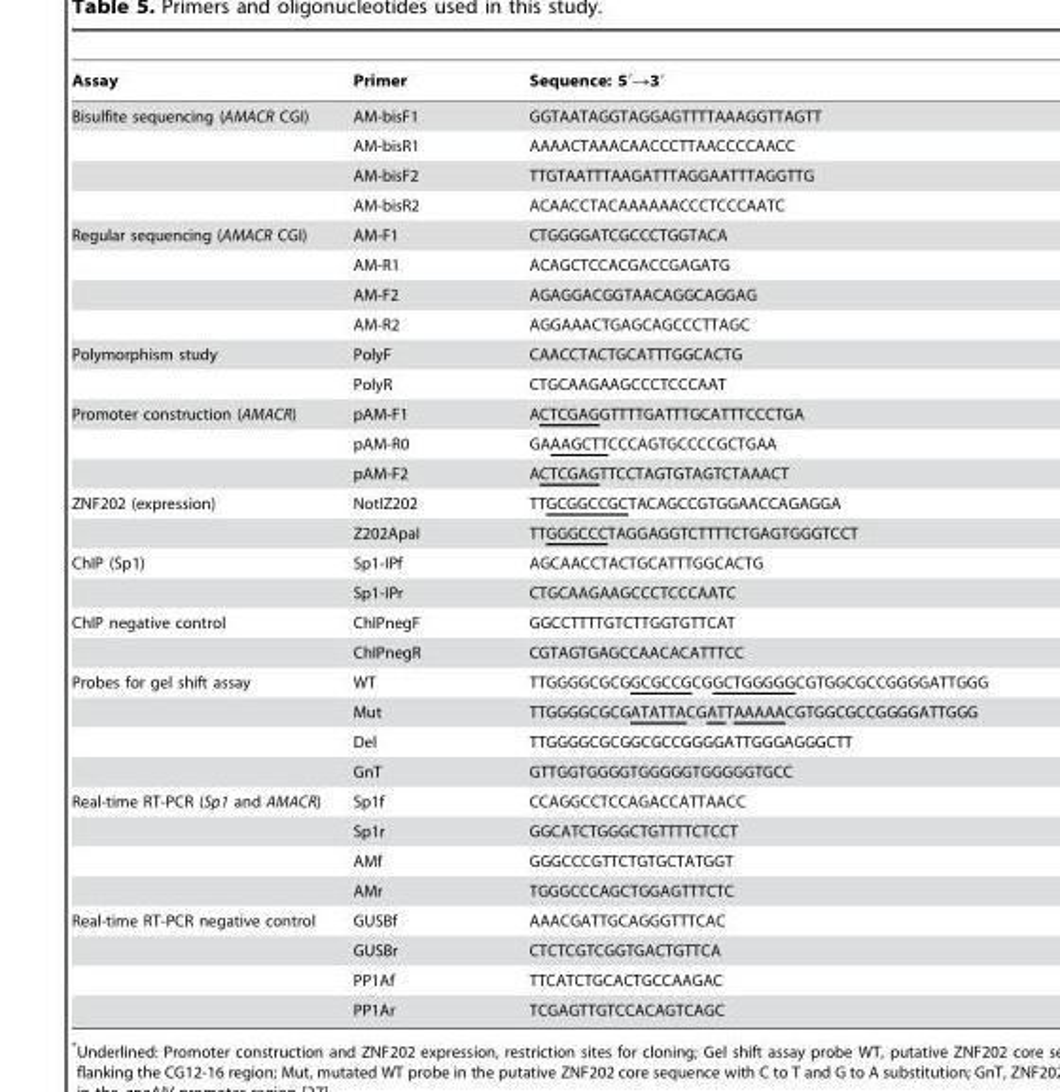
<table><thead><tr><td>Assay</td><td>Primer</td><td>Sequence: 5′→3′</td></tr></thead><tbody><tr><td rowspan="4">Bisulfite sequencing (AMACR CGI)</td><td>AM-bisF1</td><td>GGTAATAGGTAGGAGTTTTAAAGGTTAGTT</td></tr><tr><td>AM-bisR1</td><td>AAAACTAAACAACCCTTAACCCCAACC</td></tr><tr><td>AM-bisF2</td><td>TTGTAATTTAAGATTTAGGAATTTAGGTTG</td></tr><tr><td>AM-bisR2</td><td>ACAACCTACAAAAAACCCTCCCAATC</td></tr><tr><td rowspan="4">Regular sequencing (AMACR CGI)</td><td>AM-F1</td><td>CTGGGGATCGCCCTGGTACA</td></tr><tr><td>AM-R1</td><td>ACAGCTCCACGACCGAGATG</td></tr><tr><td>AM-F2</td><td>AGAGGACGGTAACAGGCAGGAG</td></tr><tr><td>AM-R2</td><td>AGGAAACTGAGCAGCCCTTAGC</td></tr><tr><td rowspan="2">Polymorphism study</td><td>PolyF</td><td>CAACCTACTGCATTTGGCACTG</td></tr><tr><td>PolyR</td><td>CTGCAAGAAGCCCTCCCAAT</td></tr><tr><td rowspan="3">Promoter construction (AMACR)</td><td>pAM-F1</td><td>ACTCGAGGTTTTGATTTGCATTTCCCTGA</td></tr><tr><td>pAM-R0</td><td>GAAAGCTTCCCAGTGCCCCGCTGAA</td></tr><tr><td>pAM-F2</td><td>ACTCGAGTTCCTAGTGTAGTCTAAACT</td></tr><tr><td rowspan="2">ZNF202 (expression)</td><td>NotIZ202</td><td>TTGCGGCCGCTACAGCCGTGGAACCAGAGGA</td></tr><tr><td>Z202ApaI</td><td>TTGGGCCCTAGGAGGTCTTTTCTGAGTGGGTCCT</td></tr><tr><td rowspan="2">ChIP (Sp1)</td><td>Sp1-IPf</td><td>AGCAACCTACTGCATTTGGCACTG</td></tr><tr><td>Sp1-IPr</td><td>CTGCAAGAAGCCCTCCCAATC</td></tr><tr><td rowspan="2">ChIP negative control</td><td>ChIPnegF</td><td>GGCCTTTTGTCTTGGTGTTCAT</td></tr><tr><td>ChIPnegR</td><td>CGTAGTGAGCCAACACATTTCC</td></tr><tr><td rowspan="4">Probes for gel shift assay</td><td>WT</td><td>TTGGGGCGCGGCGCCGCGGCTGGGGGCGTGGCGCCGGGGATTGGG</td></tr><tr><td>Mut</td><td>TTGGGGCGCGATATTACGATTAAAAACGTGGCGCCGGGGATTGGG</td></tr><tr><td>Del</td><td>TTGGGGCGCGGCGCCGGGGATTGGGAGGGCTT</td></tr><tr><td>GnT</td><td>GTTGGTGGGGTGGGGGTGGGGGTGCC</td></tr><tr><td rowspan="4">Real-time RT-PCR (Sp1 and AMACR)</td><td>Sp1f</td><td>CCAGGCCTCCAGACCATTAACC</td></tr><tr><td>Sp1r</td><td>GGCATCTGGGCTGTTTTCTCCT</td></tr><tr><td>AMf</td><td>GGGCCCGTTCTGTGCTATGGT</td></tr><tr><td>AMr</td><td>TGGGCCCAGCTGGAGTTTCTC</td></tr><tr><td rowspan="4">Real-time RT-PCR negative control</td><td>GUSBf</td><td>AAACGATTGCAGGGTTTCAC</td></tr><tr><td>GUSBr</td><td>CTCTCGTCGGTGACTGTTCA</td></tr><tr><td>PP1Af</td><td>TTCATCTGCACTGCCAAGAC</td></tr><tr><td>PP1Ar</td><td>TCGAGTTGTCCACAGTCAGC</td></tr></tbody></table>